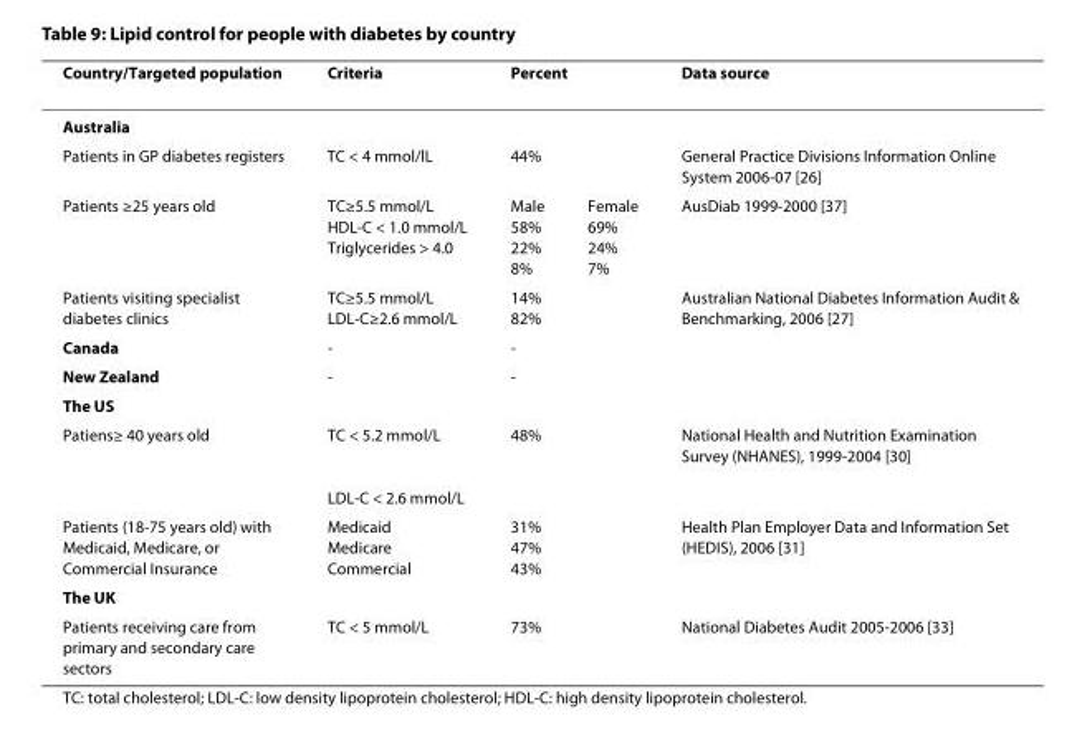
<table><thead><tr><td rowspan="2">Country/Targeted population Australia</td><td rowspan="2">Criteria</td><td colspan="2">Percent</td><td rowspan="2">Data source</td></tr><tr><td></td><td></td></tr></thead><tbody><tr><td>Patients in GP diabetes registers</td><td>TC &lt; 4 mmol/lL</td><td>44%</td><td></td><td>General Practice Divisions Information Online System 2006-07 [26]</td></tr><tr><td>Patients ≥25 years old</td><td>TC≥5.5 mmol/L HDL-C &lt; 1.0 mmol/L Triglycerides &gt; 4.0</td><td>Male 58% 22% 8%</td><td>Female 69% 24% 7%</td><td>AusDiab 1999-2000 [37]</td></tr><tr><td>Patients visiting specialist diabetes clinics</td><td>TC≥5.5 mmol/L LDL-C≥2.6 mmol/L</td><td>14% 82%</td><td></td><td>Australian National Diabetes Information Audit &amp; Benchmarking, 2006 [27]</td></tr><tr><td>Canada</td><td>-</td><td>-</td><td></td><td></td></tr><tr><td>New Zealand</td><td>-</td><td>-</td><td></td><td></td></tr><tr><td colspan="5">The US</td></tr><tr><td>Patiens≥ 40 years old</td><td>TC &lt; 5.2 mmol/L LDL-C &lt; 2.6 mmol/L</td><td>48%</td><td></td><td>National Health and Nutrition Examination Survey (NHANES), 1999-2004 [30]</td></tr><tr><td>Patients (18-75 years old) with Medicaid, Medicare, or Commercial Insurance</td><td>Medicaid Medicare Commercial</td><td>31% 47% 43%</td><td></td><td>Health Plan Employer Data and Information Set (HEDIS), 2006 [31]</td></tr><tr><td colspan="5">The UK</td></tr><tr><td>Patients receiving care from primary and secondary care sectors</td><td>TC &lt; 5 mmol/L</td><td>73%</td><td></td><td>National Diabetes Audit 2005-2006 [33]</td></tr></tbody></table>